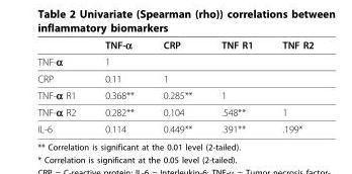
<table><thead><tr><td></td><td>TNF-α</td><td>CRP</td><td>TNF R1</td><td>TNF R2</td></tr></thead><tbody><tr><td>TNF-α</td><td>1</td><td></td><td></td><td></td></tr><tr><td>CRP</td><td>0.11</td><td>1</td><td></td><td></td></tr><tr><td>TNF-α R1</td><td>0.368**</td><td>0.285**</td><td>1</td><td></td></tr><tr><td>TNF-α R2</td><td>0.282**</td><td>0.104</td><td>.548**</td><td>1</td></tr><tr><td>IL-6</td><td>0.114</td><td>0.449**</td><td>.391**</td><td>.199*</td></tr></tbody></table>